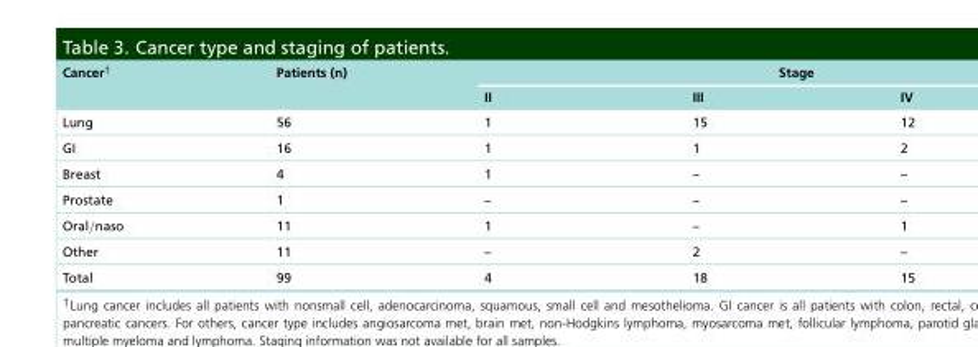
<table><thead><tr><td rowspan="2">Cancer<sup>†</sup></td><td rowspan="2">Patients (n)</td><td colspan="3">Stage</td></tr><tr><td>II</td><td>III</td><td>IV</td></tr></thead><tbody><tr><td>Lung</td><td>56</td><td>1</td><td>15</td><td>12</td></tr><tr><td>GI</td><td>16</td><td>1</td><td>1</td><td>2</td></tr><tr><td>Breast</td><td>4</td><td>1</td><td>–</td><td>–</td></tr><tr><td>Prostate</td><td>1</td><td>–</td><td>–</td><td>–</td></tr><tr><td>Oral/naso</td><td>11</td><td>1</td><td>–</td><td>1</td></tr><tr><td>Other</td><td>11</td><td>–</td><td>2</td><td>–</td></tr><tr><td>Total</td><td>99</td><td>4</td><td>18</td><td>15</td></tr></tbody></table>